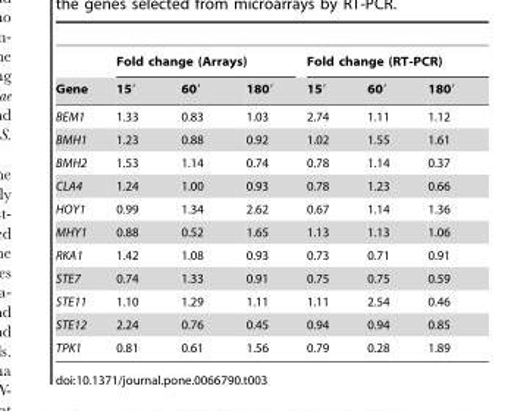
<table><thead><tr><td rowspan="2">Gene</td><td colspan="3">Fold change (Arrays)</td><td colspan="3">Fold change (RT-PCR)</td></tr><tr><td>15′</td><td>60′</td><td>180′</td><td>15′</td><td>60′</td><td>180′</td></tr></thead><tbody><tr><td>BEM1</td><td>1.33</td><td>0.83</td><td>1.03</td><td>2.74</td><td>1.11</td><td>1.12</td></tr><tr><td>BMH1</td><td>1.23</td><td>0.88</td><td>0.92</td><td>1.02</td><td>1.55</td><td>1.61</td></tr><tr><td>BMH2</td><td>1.53</td><td>1.14</td><td>0.74</td><td>0.78</td><td>1.14</td><td>0.37</td></tr><tr><td>CLA4</td><td>1.24</td><td>1.00</td><td>0.93</td><td>0.78</td><td>1.23</td><td>0.66</td></tr><tr><td>HOY1</td><td>0.99</td><td>1.34</td><td>2.62</td><td>0.67</td><td>1.14</td><td>1.36</td></tr><tr><td>MHY1</td><td>0.88</td><td>0.52</td><td>1.65</td><td>1.13</td><td>1.13</td><td>1.06</td></tr><tr><td>RKA1</td><td>1.42</td><td>1.08</td><td>0.93</td><td>0.73</td><td>0.71</td><td>0.91</td></tr><tr><td>STE7</td><td>0.74</td><td>1.33</td><td>0.91</td><td>0.75</td><td>0.75</td><td>0.59</td></tr><tr><td>STE11</td><td>1.10</td><td>1.29</td><td>1.11</td><td>1.11</td><td>2.54</td><td>0.46</td></tr><tr><td>STE12</td><td>2.24</td><td>0.76</td><td>0.45</td><td>0.94</td><td>0.94</td><td>0.85</td></tr><tr><td>TPK1</td><td>0.81</td><td>0.61</td><td>1.56</td><td>0.79</td><td>0.28</td><td>1.89</td></tr></tbody></table>